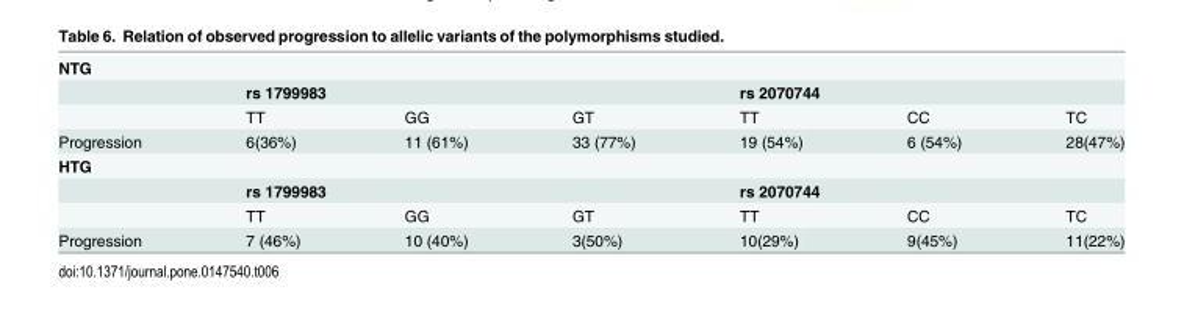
<table><tbody><tr><td colspan="7">NTG</td></tr><tr><td></td><td colspan="3">rs 1799983</td><td colspan="3">rs 2070744</td></tr><tr><td></td><td>TT</td><td>GG</td><td>GT</td><td>TT</td><td>CC</td><td>TC</td></tr><tr><td>Progression</td><td>6(36%)</td><td>11 (61%)</td><td>33 (77%)</td><td>19 (54%)</td><td>6 (54%)</td><td>28(47%)</td></tr><tr><td colspan="7">HTG</td></tr><tr><td></td><td colspan="3">rs 1799983</td><td colspan="3">rs 2070744</td></tr><tr><td></td><td>TT</td><td>GG</td><td>GT</td><td>TT</td><td>CC</td><td>TC</td></tr><tr><td>Progression</td><td>7 (46%)</td><td>10 (40%)</td><td>3(50%)</td><td>10(29%)</td><td>9(45%)</td><td>11(22%)</td></tr></tbody></table>